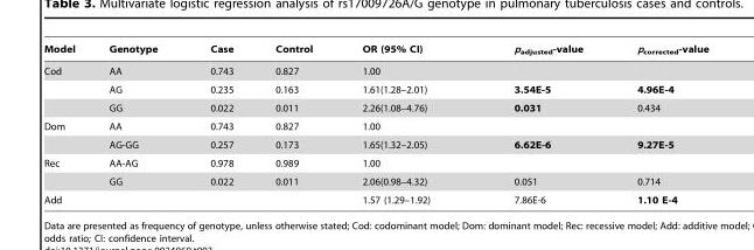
<table><thead><tr><td>Model</td><td>Genotype</td><td>Case</td><td>Control</td><td>OR (95% CI)</td><td>p<sub>adjusted</sub>-value</td><td>p<sub>corrected</sub>-value</td></tr></thead><tbody><tr><td rowspan="3">Cod</td><td>AA</td><td>0.743</td><td>0.827</td><td>1.00</td><td></td><td></td></tr><tr><td>AG</td><td>0.235</td><td>0.163</td><td>1.61(1.28–2.01)</td><td>3.54E-5</td><td>4.96E-4</td></tr><tr><td>GG</td><td>0.022</td><td>0.011</td><td>2.26(1.08–4.76)</td><td>0.031</td><td>0.434</td></tr><tr><td rowspan="2">Dom</td><td>AA</td><td>0.743</td><td>0.827</td><td>1.00</td><td></td><td></td></tr><tr><td>AG-GG</td><td>0.257</td><td>0.173</td><td>1.65(1.32–2.05)</td><td>6.62E-6</td><td>9.27E-5</td></tr><tr><td rowspan="2">Rec</td><td>AA-AG</td><td>0.978</td><td>0.989</td><td>1.00</td><td></td><td></td></tr><tr><td>GG</td><td>0.022</td><td>0.011</td><td>2.06(0.98–4.32)</td><td>0.051</td><td>0.714</td></tr><tr><td>Add</td><td></td><td></td><td></td><td>1.57 (1.29–1.92)</td><td>7.86E-6</td><td>1.10 E-4</td></tr></tbody></table>